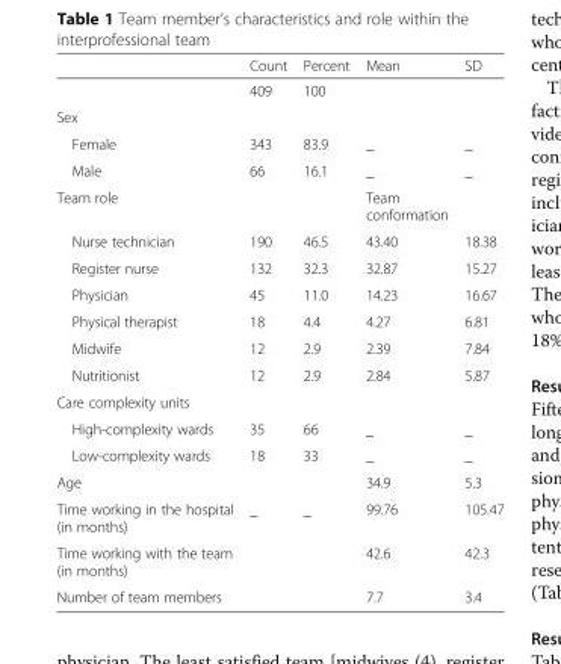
<table><thead><tr><td></td><td>Count</td><td>Percent</td><td>Mean</td><td>SD</td></tr></thead><tbody><tr><td></td><td>409</td><td>100</td><td></td><td></td></tr><tr><td colspan="5">Sex</td></tr><tr><td>Female</td><td>343</td><td>83.9</td><td>_</td><td>_</td></tr><tr><td>Male</td><td>66</td><td>16.1</td><td>_</td><td>_</td></tr><tr><td>Team role</td><td></td><td></td><td>Team conformation</td><td></td></tr><tr><td>Nurse technician</td><td>190</td><td>46.5</td><td>43.40</td><td>18.38</td></tr><tr><td>Register nurse</td><td>132</td><td>32.3</td><td>32.87</td><td>15.27</td></tr><tr><td>Physician</td><td>45</td><td>11.0</td><td>14.23</td><td>16.67</td></tr><tr><td>Physical therapist</td><td>18</td><td>4.4</td><td>4.27</td><td>6.81</td></tr><tr><td>Midwife</td><td>12</td><td>2.9</td><td>2.39</td><td>7.84</td></tr><tr><td>Nutritionist</td><td>12</td><td>2.9</td><td>2.84</td><td>5.87</td></tr><tr><td colspan="5">Care complexity units</td></tr><tr><td>High-complexity wards</td><td>35</td><td>66</td><td>_</td><td>_</td></tr><tr><td>Low-complexity wards</td><td>18</td><td>33</td><td>_</td><td>_</td></tr><tr><td>Age</td><td></td><td></td><td>34.9</td><td>5.3</td></tr><tr><td>Time working in the hospital (in months)</td><td>_</td><td>_</td><td>99.76</td><td>105.47</td></tr><tr><td>Time working with the team (in months)</td><td></td><td></td><td>42.6</td><td>42.3</td></tr><tr><td>Number of team members</td><td></td><td></td><td>7.7</td><td>3.4</td></tr></tbody></table>